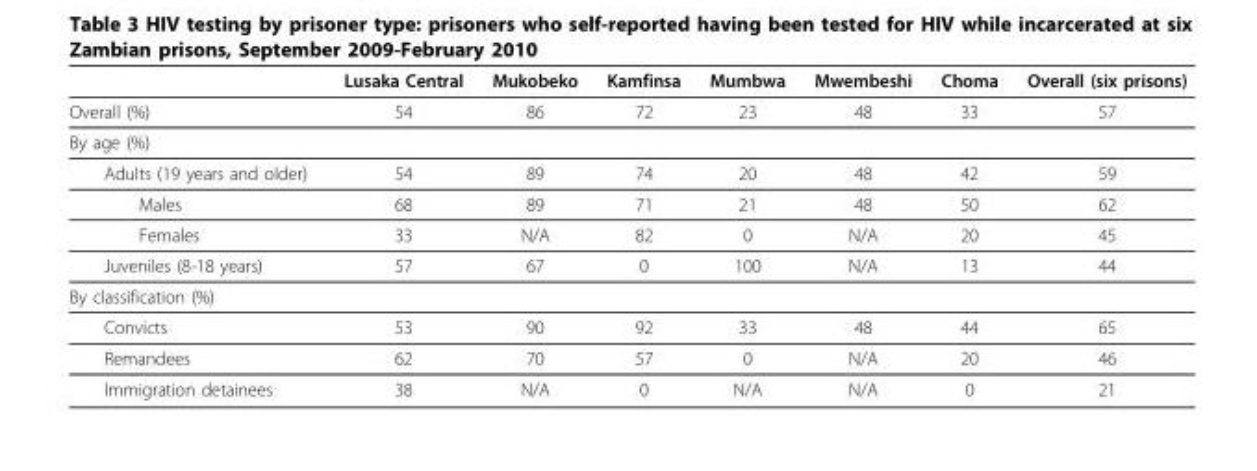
<table><thead><tr><td></td><td>Lusaka Central</td><td>Mukobeko</td><td>Kamfinsa</td><td>Mumbwa</td><td>Mwembeshi</td><td>Choma</td><td>Overall (six prisons)</td></tr></thead><tbody><tr><td>Overall (%)</td><td>54</td><td>86</td><td>72</td><td>23</td><td>48</td><td>33</td><td>57</td></tr><tr><td colspan="8">By age (%)</td></tr><tr><td>Adults (19 years and older)</td><td>54</td><td>89</td><td>74</td><td>20</td><td>48</td><td>42</td><td>59</td></tr><tr><td>Males</td><td>68</td><td>89</td><td>71</td><td>21</td><td>48</td><td>50</td><td>62</td></tr><tr><td>Females</td><td>33</td><td>N/A</td><td>82</td><td>0</td><td>N/A</td><td>20</td><td>45</td></tr><tr><td>Juveniles (8-18 years)</td><td>57</td><td>67</td><td>0</td><td>100</td><td>N/A</td><td>13</td><td>44</td></tr><tr><td colspan="8">By classification (%)</td></tr><tr><td>Convicts</td><td>53</td><td>90</td><td>92</td><td>33</td><td>48</td><td>44</td><td>65</td></tr><tr><td>Remandees</td><td>62</td><td>70</td><td>57</td><td>0</td><td>N/A</td><td>20</td><td>46</td></tr><tr><td>Immigration detainees</td><td>38</td><td>N/A</td><td>0</td><td>N/A</td><td>N/A</td><td>0</td><td>21</td></tr></tbody></table>